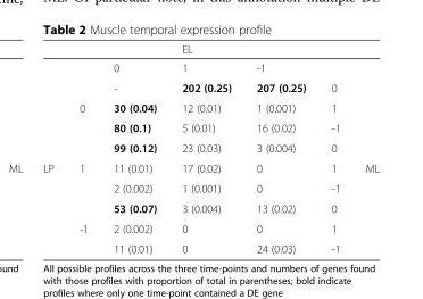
<table><thead><tr><td></td><td></td><td></td><td>EL</td><td></td><td></td><td></td></tr></thead><tbody><tr><td></td><td></td><td>0</td><td>1</td><td>-1</td><td></td><td></td></tr><tr><td></td><td></td><td>-</td><td>202 (0.25)</td><td>207 (0.25)</td><td>0</td><td></td></tr><tr><td></td><td>0</td><td>30 (0.04)</td><td>12 (0.01)</td><td>1 (0.001)</td><td>1</td><td></td></tr><tr><td></td><td></td><td>80 (0.1)</td><td>5 (0.01)</td><td>16 (0.02)</td><td>-1</td><td></td></tr><tr><td></td><td></td><td>99 (0.12)</td><td>23 (0.03)</td><td>3 (0.004)</td><td>0</td><td></td></tr><tr><td rowspan="5">LP</td><td>1</td><td>11 (0.01)</td><td>17 (0.02)</td><td>0</td><td>1</td><td>ML</td></tr><tr><td></td><td>2 (0.002)</td><td>1 (0.001)</td><td>0</td><td>-1</td><td></td></tr><tr><td></td><td>53 (0.07)</td><td>3 (0.004)</td><td>13 (0.02)</td><td>0</td><td></td></tr><tr><td>-1</td><td>2 (0.002)</td><td>0</td><td>0</td><td>1</td><td></td></tr><tr><td></td><td>11 (0.01)</td><td>0</td><td>24 (0.03)</td><td>-1</td><td></td></tr></tbody></table>